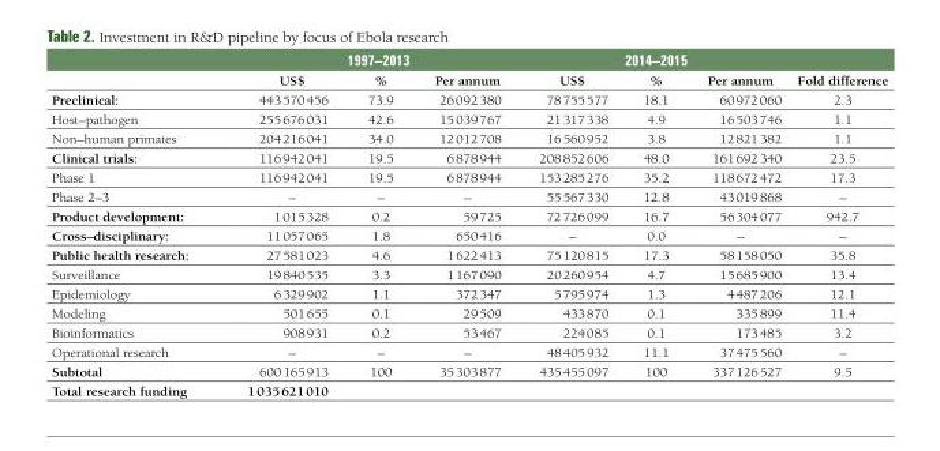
<table><thead><tr><td rowspan="2"></td><td colspan="3">1997–2013</td><td colspan="3">2014–2015</td><td rowspan="2">Fold difference</td></tr><tr><td>US$</td><td>%</td><td>Per annum</td><td>US$</td><td>%</td><td>Per annum</td></tr></thead><tbody><tr><td>Preclinical:</td><td>443 570 456</td><td>73.9</td><td>26 092 380</td><td>78 755 577</td><td>18.1</td><td>60 972 060</td><td>2.3</td></tr><tr><td>Host–pathogen</td><td>255 676 031</td><td>42.6</td><td>15 039 767</td><td>21 317 338</td><td>4.9</td><td>16 503 746</td><td>1.1</td></tr><tr><td>Non–human primates</td><td>204 216 041</td><td>34.0</td><td>12 012 708</td><td>16 560 952</td><td>3.8</td><td>12 821 382</td><td>1.1</td></tr><tr><td>Clinical trials:</td><td>116 942 041</td><td>19.5</td><td>6 878 944</td><td>208 852 606</td><td>48.0</td><td>161 692 340</td><td>23.5</td></tr><tr><td>Phase 1</td><td>116 942 041</td><td>19.5</td><td>6 878 944</td><td>153 285 276</td><td>35.2</td><td>118 672 472</td><td>17.3</td></tr><tr><td>Phase 2–3</td><td>–</td><td>–</td><td>–</td><td>55 567 330</td><td>12.8</td><td>43 019 868</td><td>–</td></tr><tr><td>Product development:</td><td>1 015 328</td><td>0.2</td><td>59 725</td><td>72 726 099</td><td>16.7</td><td>56 304 077</td><td>942.7</td></tr><tr><td>Cross–disciplinary:</td><td>11 057 065</td><td>1.8</td><td>650 416</td><td>–</td><td>0.0</td><td>–</td><td>–</td></tr><tr><td>Public health research:</td><td>27 581 023</td><td>4.6</td><td>1 622 413</td><td>75 120 815</td><td>17.3</td><td>58 158 050</td><td>35.8</td></tr><tr><td>Surveillance</td><td>19 840 535</td><td>3.3</td><td>1 167 090</td><td>20 260 954</td><td>4.7</td><td>15 685 900</td><td>13.4</td></tr><tr><td>Epidemiology</td><td>6 329 902</td><td>1.1</td><td>372 347</td><td>5 795 974</td><td>1.3</td><td>4 487 206</td><td>12.1</td></tr><tr><td>Modeling</td><td>501 655</td><td>0.1</td><td>29 509</td><td>433 870</td><td>0.1</td><td>335 899</td><td>11.4</td></tr><tr><td>Bioinformatics</td><td>908 931</td><td>0.2</td><td>53 467</td><td>224 085</td><td>0.1</td><td>173 485</td><td>3.2</td></tr><tr><td>Operational research</td><td>–</td><td>–</td><td>–</td><td>48 405 932</td><td>11.1</td><td>37 475 560</td><td>–</td></tr><tr><td>Subtotal</td><td>600 165 913</td><td>100</td><td>35 303 877</td><td>435 455 097</td><td>100</td><td>337 126 527</td><td>9.5</td></tr><tr><td>Total research funding</td><td>1 035 621 010</td><td></td><td></td><td></td><td></td><td></td><td></td></tr></tbody></table>